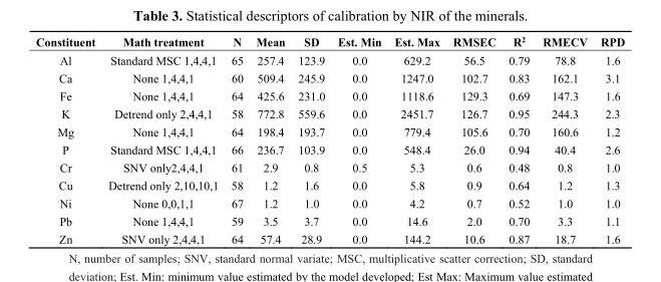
<table><thead><tr><td>Constituent</td><td>Math treatment</td><td>N</td><td>Mean</td><td>SD</td><td>Est. Min</td><td>Est. Max</td><td>RMSEC</td><td>R<sup>2</sup></td><td>RMECV</td><td>RPD</td></tr></thead><tbody><tr><td>Al</td><td>Standard MSC 1,4,4,1</td><td>65</td><td>257.4</td><td>123.9</td><td>0.0</td><td>629.2</td><td>56.5</td><td>0.79</td><td>78.8</td><td>1.6</td></tr><tr><td>Ca</td><td>None 1,4,4,1</td><td>60</td><td>509.4</td><td>245.9</td><td>0.0</td><td>1247.0</td><td>102.7</td><td>0.83</td><td>162.1</td><td>3.1</td></tr><tr><td>Fe</td><td>None 1,4,4,1</td><td>64</td><td>425.6</td><td>231.0</td><td>0.0</td><td>1118.6</td><td>129.3</td><td>0.69</td><td>147.3</td><td>1.6</td></tr><tr><td>K</td><td>Detrend only 2,4,4,1</td><td>58</td><td>772.8</td><td>559.6</td><td>0.0</td><td>2451.7</td><td>126.7</td><td>0.95</td><td>244.3</td><td>2.3</td></tr><tr><td>Mg</td><td>None 1,4,4,1</td><td>64</td><td>198.4</td><td>193.7</td><td>0.0</td><td>779.4</td><td>105.6</td><td>0.70</td><td>160.6</td><td>1.2</td></tr><tr><td>P</td><td>Standard MSC 1,4,4,1</td><td>66</td><td>236.7</td><td>103.9</td><td>0.0</td><td>548.4</td><td>26.0</td><td>0.94</td><td>40.4</td><td>2.6</td></tr><tr><td>Cr</td><td>SNV only2,4,4,1</td><td>61</td><td>2.9</td><td>0.8</td><td>0.5</td><td>5.3</td><td>0.6</td><td>0.48</td><td>0.8</td><td>1.0</td></tr><tr><td>Cu</td><td>Detrend only 2,10,10,1</td><td>58</td><td>1.2</td><td>1.6</td><td>0.0</td><td>5.8</td><td>0.9</td><td>0.64</td><td>1.2</td><td>1.3</td></tr><tr><td>Ni</td><td>None 0,0,1,1</td><td>67</td><td>1.2</td><td>1.0</td><td>0.0</td><td>4.2</td><td>0.7</td><td>0.52</td><td>1.0</td><td>1.0</td></tr><tr><td>Pb</td><td>None 1,4,4,1</td><td>59</td><td>3.5</td><td>3.7</td><td>0.0</td><td>14.6</td><td>2.0</td><td>0.70</td><td>3.3</td><td>1.1</td></tr><tr><td>Zn</td><td>SNV only 2,4,4,1</td><td>64</td><td>57.4</td><td>28.9</td><td>0.0</td><td>144.2</td><td>10.6</td><td>0.87</td><td>18.7</td><td>1.6</td></tr></tbody></table>